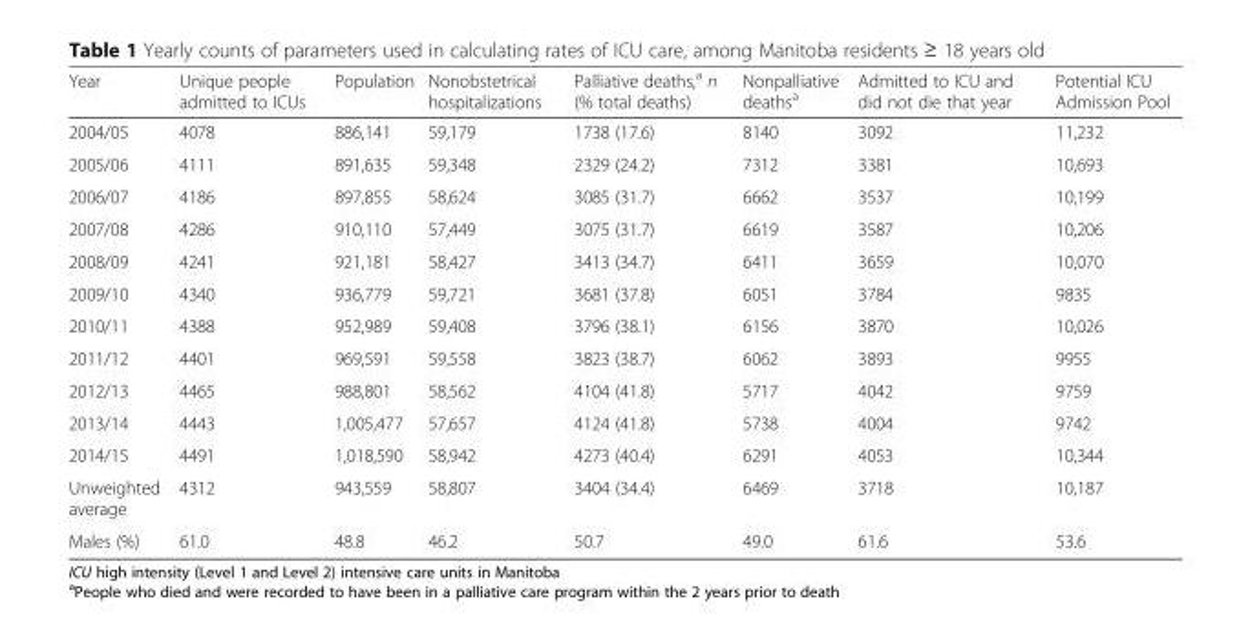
<table><thead><tr><td>Year</td><td>Unique people admitted to ICUs</td><td>Population</td><td>Nonobstetrical hospitalizations</td><td>Palliative deaths,<sup>a</sup> n (% total deaths)</td><td>Nonpalliative deaths<sup>a</sup></td><td>Admitted to ICU and did not die that year</td><td>Potential ICU Admission Pool</td></tr></thead><tbody><tr><td>2004/05</td><td>4078</td><td>886,141</td><td>59,179</td><td>1738 (17.6)</td><td>8140</td><td>3092</td><td>11,232</td></tr><tr><td>2005/06</td><td>4111</td><td>891,635</td><td>59,348</td><td>2329 (24.2)</td><td>7312</td><td>3381</td><td>10,693</td></tr><tr><td>2006/07</td><td>4186</td><td>897,855</td><td>58,624</td><td>3085 (31.7)</td><td>6662</td><td>3537</td><td>10,199</td></tr><tr><td>2007/08</td><td>4286</td><td>910,110</td><td>57,449</td><td>3075 (31.7)</td><td>6619</td><td>3587</td><td>10,206</td></tr><tr><td>2008/09</td><td>4241</td><td>921,181</td><td>58,427</td><td>3413 (34.7)</td><td>6411</td><td>3659</td><td>10,070</td></tr><tr><td>2009/10</td><td>4340</td><td>936,779</td><td>59,721</td><td>3681 (37.8)</td><td>6051</td><td>3784</td><td>9835</td></tr><tr><td>2010/11</td><td>4388</td><td>952,989</td><td>59,408</td><td>3796 (38.1)</td><td>6156</td><td>3870</td><td>10,026</td></tr><tr><td>2011/12</td><td>4401</td><td>969,591</td><td>59,558</td><td>3823 (38.7)</td><td>6062</td><td>3893</td><td>9955</td></tr><tr><td>2012/13</td><td>4465</td><td>988,801</td><td>58,562</td><td>4104 (41.8)</td><td>5717</td><td>4042</td><td>9759</td></tr><tr><td>2013/14</td><td>4443</td><td>1,005,477</td><td>57,657</td><td>4124 (41.8)</td><td>5738</td><td>4004</td><td>9742</td></tr><tr><td>2014/15</td><td>4491</td><td>1,018,590</td><td>58,942</td><td>4273 (40.4)</td><td>6291</td><td>4053</td><td>10,344</td></tr><tr><td>Unweighted average</td><td>4312</td><td>943,559</td><td>58,807</td><td>3404 (34.4)</td><td>6469</td><td>3718</td><td>10,187</td></tr><tr><td>Males (%)</td><td>61.0</td><td>48.8</td><td>46.2</td><td>50.7</td><td>49.0</td><td>61.6</td><td>53.6</td></tr></tbody></table>